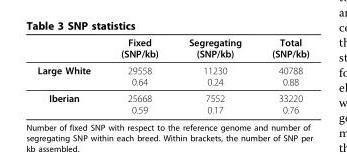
<table><thead><tr><td></td><td>Fixed (SNP/kb)</td><td>Segregating (SNP/kb)</td><td>Total (SNP/kb)</td></tr></thead><tbody><tr><td>Large White</td><td>29558 0.64</td><td>11230 0.24</td><td>40788 0.88</td></tr><tr><td>Iberian</td><td>25668 0.59</td><td>7552 0.17</td><td>33220 0.76</td></tr></tbody></table>